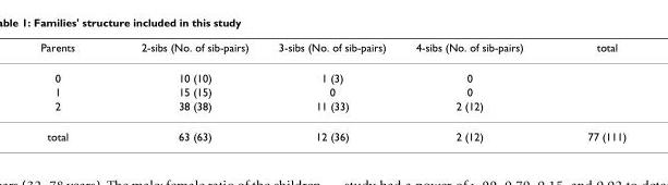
<table><thead><tr><td>Parents</td><td>2-sibs (No. of sib-pairs)</td><td>3-sibs (No. of sib-pairs)</td><td>4-sibs (No. of sib-pairs)</td><td>total</td></tr></thead><tbody><tr><td>0</td><td>10 (10)</td><td>1 (3)</td><td>0</td><td></td></tr><tr><td>1</td><td>15 (15)</td><td>0</td><td>0</td><td></td></tr><tr><td>2</td><td>38 (38)</td><td>11 (33)</td><td>2 (12)</td><td></td></tr><tr><td>total</td><td>63 (63)</td><td>12 (36)</td><td>2 (12)</td><td>77 (111)</td></tr></tbody></table>